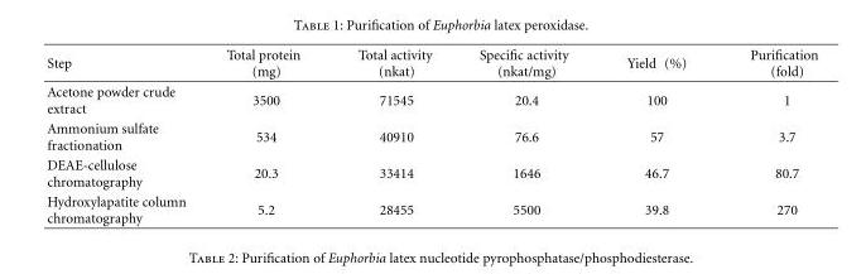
<table><thead><tr><td>Step</td><td>Total protein (mg)</td><td>Total activity (nkat)</td><td>Specific activity (nkat/mg)</td><td>Yield (%)</td><td>Purification (fold)</td></tr></thead><tbody><tr><td>Acetone powder crude extract</td><td>3500</td><td>71545</td><td>20.4</td><td>100</td><td>1</td></tr><tr><td>Ammonium sulfate fractionation</td><td>534</td><td>40910</td><td>76.6</td><td>57</td><td>3.7</td></tr><tr><td>DEAE-cellulose chromatography</td><td>20.3</td><td>33414</td><td>1646</td><td>46.7</td><td>80.7</td></tr><tr><td>Hydroxylapatite column chromatography</td><td>5.2</td><td>28455</td><td>5500</td><td>39.8</td><td>270</td></tr></tbody></table>